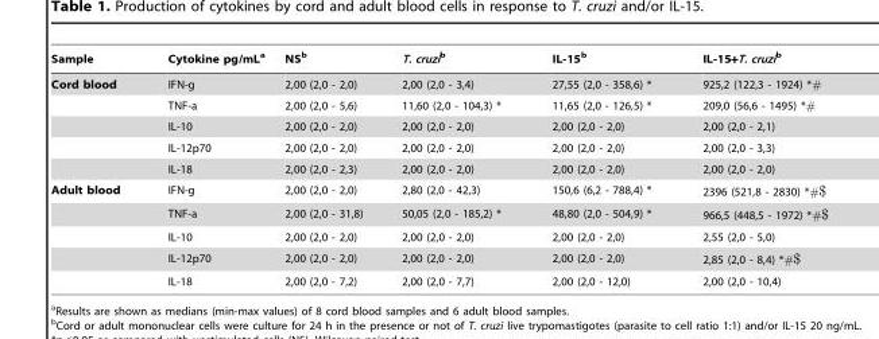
<table><thead><tr><td>Sample</td><td>Cytokine pg/mL<sup>a</sup></td><td>NS<sup>b</sup></td><td>T. cruzib</td><td>IL-15<sup>b</sup></td><td>IL-15+T. cruzib</td></tr></thead><tbody><tr><td rowspan="5">Cord blood</td><td>IFN-g</td><td>2,00 (2,0 - 2,0)</td><td>2,00 (2,0 - 3,4)</td><td>27,55 (2,0 - 358,6) *</td><td>925,2 (122,3 - 1924) *#</td></tr><tr><td>TNF-a</td><td>2,00 (2,0 - 5,6)</td><td>11,60 (2,0 - 104,3) *</td><td>11,65 (2,0 - 126,5) *</td><td>209,0 (56,6 - 1495) *#</td></tr><tr><td>IL-10</td><td>2,00 (2,0 - 2,0)</td><td>2,00 (2,0 - 2,0)</td><td>2,00 (2,0 - 2,0)</td><td>2,00 (2,0 - 2,1)</td></tr><tr><td>IL-12p70</td><td>2,00 (2,0 - 2,0)</td><td>2,00 (2,0 - 2,0)</td><td>2,00 (2,0 - 2,0)</td><td>2,00 (2,0 - 3,3)</td></tr><tr><td>IL-18</td><td>2,00 (2,0 - 2,3)</td><td>2,00 (2,0 - 2,0)</td><td>2,00 (2,0 - 2,0)</td><td>2,00 (2,0 - 2,0)</td></tr><tr><td rowspan="5">Adult blood</td><td>IFN-g</td><td>2,00 (2,0 - 2,0)</td><td>2,80 (2,0 - 42,3)</td><td>150,6 (6,2 - 788,4) *</td><td>2396 (521,8 - 2830) *#$</td></tr><tr><td>TNF-a</td><td>2,00 (2,0 - 31,8)</td><td>50,05 (2,0 - 185,2) *</td><td>48,80 (2,0 - 504,9) *</td><td>966,5 (448,5 - 1972) *#$</td></tr><tr><td>IL-10</td><td>2,00 (2,0 - 2,0)</td><td>2,00 (2,0 - 2,0)</td><td>2,00 (2,0 - 2,0)</td><td>2,55 (2,0 - 5,0)</td></tr><tr><td>IL-12p70</td><td>2,00 (2,0 - 2,0)</td><td>2,00 (2,0 - 2,0)</td><td>2,00 (2,0 - 2,0)</td><td>2,85 (2,0 - 8,4) *#$</td></tr><tr><td>IL-18</td><td>2,00 (2,0 - 7,2)</td><td>2,00 (2,0 - 7,7)</td><td>2,00 (2,0 - 12,0)</td><td>2,00 (2,0 - 10,4)</td></tr></tbody></table>